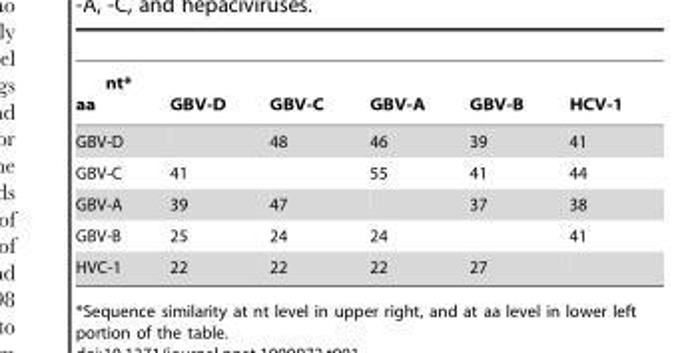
<table><thead><tr><td>nt* aa</td><td>GBV-D</td><td>GBV-C</td><td>GBV-A</td><td>GBV-B</td><td>HCV-1</td></tr></thead><tbody><tr><td>GBV-D</td><td></td><td>48</td><td>46</td><td>39</td><td>41</td></tr><tr><td>GBV-C</td><td>41</td><td></td><td>55</td><td>41</td><td>44</td></tr><tr><td>GBV-A</td><td>39</td><td>47</td><td></td><td>37</td><td>38</td></tr><tr><td>GBV-B</td><td>25</td><td>24</td><td>24</td><td></td><td>41</td></tr><tr><td>HVC-1</td><td>22</td><td>22</td><td>22</td><td>27</td><td></td></tr></tbody></table>